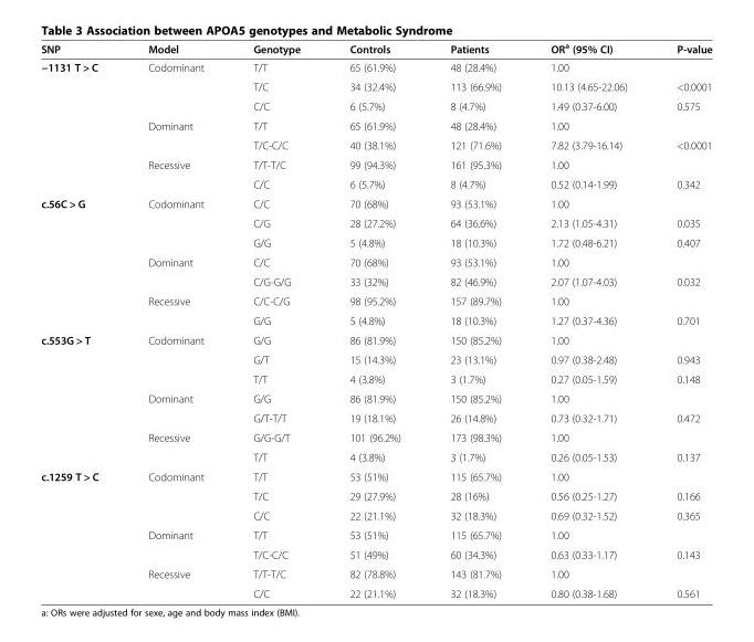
<table><thead><tr><td>SNP</td><td>Model</td><td>Genotype</td><td>Controls</td><td>Patients</td><td>OR<sup>a</sup> (95% CI)</td><td>P-value</td></tr></thead><tbody><tr><td rowspan="7">−1131 T &gt; C</td><td rowspan="3">Codominant</td><td>T/T</td><td>65 (61.9%)</td><td>48 (28.4%)</td><td>1.00</td><td></td></tr><tr><td>T/C</td><td>34 (32.4%)</td><td>113 (66.9%)</td><td>10.13 (4.65-22.06)</td><td>&lt;0.0001</td></tr><tr><td>C/C</td><td>6 (5.7%)</td><td>8 (4.7%)</td><td>1.49 (0.37-6.00)</td><td>0.575</td></tr><tr><td rowspan="2">Dominant</td><td>T/T</td><td>65 (61.9%)</td><td>48 (28.4%)</td><td>1.00</td><td></td></tr><tr><td>T/C-C/C</td><td>40 (38.1%)</td><td>121 (71.6%)</td><td>7.82 (3.79-16.14)</td><td>&lt;0.0001</td></tr><tr><td rowspan="2">Recessive</td><td>T/T-T/C</td><td>99 (94.3%)</td><td>161 (95.3%)</td><td>1.00</td><td></td></tr><tr><td>C/C</td><td>6 (5.7%)</td><td>8 (4.7%)</td><td>0.52 (0.14-1.99)</td><td>0.342</td></tr><tr><td rowspan="7">c.56C &gt; G</td><td rowspan="3">Codominant</td><td>C/C</td><td>70 (68%)</td><td>93 (53.1%)</td><td>1.00</td><td></td></tr><tr><td>C/G</td><td>28 (27.2%)</td><td>64 (36.6%)</td><td>2.13 (1.05-4.31)</td><td>0.035</td></tr><tr><td>G/G</td><td>5 (4.8%)</td><td>18 (10.3%)</td><td>1.72 (0.48-6.21)</td><td>0.407</td></tr><tr><td rowspan="2">Dominant</td><td>C/C</td><td>70 (68%)</td><td>93 (53.1%)</td><td>1.00</td><td></td></tr><tr><td>C/G-G/G</td><td>33 (32%)</td><td>82 (46.9%)</td><td>2.07 (1.07-4.03)</td><td>0.032</td></tr><tr><td rowspan="2">Recessive</td><td>C/C-C/G</td><td>98 (95.2%)</td><td>157 (89.7%)</td><td>1.00</td><td></td></tr><tr><td>G/G</td><td>5 (4.8%)</td><td>18 (10.3%)</td><td>1.27 (0.37-4.36)</td><td>0.701</td></tr><tr><td rowspan="7">c.553G &gt; T</td><td rowspan="3">Codominant</td><td>G/G</td><td>86 (81.9%)</td><td>150 (85.2%)</td><td>1.00</td><td></td></tr><tr><td>G/T</td><td>15 (14.3%)</td><td>23 (13.1%)</td><td>0.97 (0.38-2.48)</td><td>0.943</td></tr><tr><td>T/T</td><td>4 (3.8%)</td><td>3 (1.7%)</td><td>0.27 (0.05-1.59)</td><td>0.148</td></tr><tr><td rowspan="2">Dominant</td><td>G/G</td><td>86 (81.9%)</td><td>150 (85.2%)</td><td>1.00</td><td></td></tr><tr><td>G/T-T/T</td><td>19 (18.1%)</td><td>26 (14.8%)</td><td>0.73 (0.32-1.71)</td><td>0.472</td></tr><tr><td rowspan="2">Recessive</td><td>G/G-G/T</td><td>101 (96.2%)</td><td>173 (98.3%)</td><td>1.00</td><td></td></tr><tr><td>T/T</td><td>4 (3.8%)</td><td>3 (1.7%)</td><td>0.26 (0.05-1.53)</td><td>0.137</td></tr><tr><td rowspan="7">c.1259 T &gt; C</td><td rowspan="3">Codominant</td><td>T/T</td><td>53 (51%)</td><td>115 (65.7%)</td><td>1.00</td><td></td></tr><tr><td>T/C</td><td>29 (27.9%)</td><td>28 (16%)</td><td>0.56 (0.25-1.27)</td><td>0.166</td></tr><tr><td>C/C</td><td>22 (21.1%)</td><td>32 (18.3%)</td><td>0.69 (0.32-1.52)</td><td>0.365</td></tr><tr><td rowspan="2">Dominant</td><td>T/T</td><td>53 (51%)</td><td>115 (65.7%)</td><td>1.00</td><td></td></tr><tr><td>T/C-C/C</td><td>51 (49%)</td><td>60 (34.3%)</td><td>0.63 (0.33-1.17)</td><td>0.143</td></tr><tr><td rowspan="2">Recessive</td><td>T/T-T/C</td><td>82 (78.8%)</td><td>143 (81.7%)</td><td>1.00</td><td></td></tr><tr><td>C/C</td><td>22 (21.1%)</td><td>32 (18.3%)</td><td>0.80 (0.38-1.68)</td><td>0.561</td></tr></tbody></table>